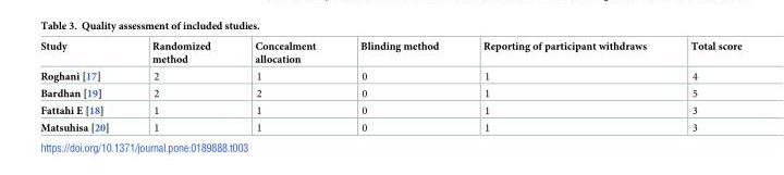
<table><thead><tr><td>Study</td><td>Randomized method</td><td>Concealment allocation</td><td>Blinding method</td><td>Reporting of participant withdraws</td><td>Total score</td></tr></thead><tbody><tr><td>Roghani [17]</td><td>2</td><td>1</td><td>0</td><td>1</td><td>4</td></tr><tr><td>Bardhan [19]</td><td>2</td><td>2</td><td>0</td><td>1</td><td>5</td></tr><tr><td>Fattahi E [18]</td><td>1</td><td>1</td><td>0</td><td>1</td><td>3</td></tr><tr><td>Matsuhisa [20]</td><td>1</td><td>1</td><td>0</td><td>1</td><td>3</td></tr></tbody></table>